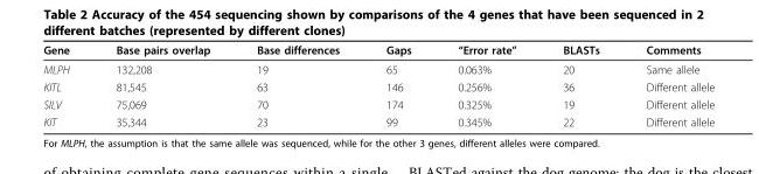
<table><thead><tr><td>Gene</td><td>Base pairs overlap</td><td>Base differences</td><td>Gaps</td><td>“Error rate”</td><td>BLASTs</td><td>Comments</td></tr></thead><tbody><tr><td>MLPH</td><td>132,208</td><td>19</td><td>65</td><td>0.063%</td><td>20</td><td>Same allele</td></tr><tr><td>KITL</td><td>81,545</td><td>63</td><td>146</td><td>0.256%</td><td>36</td><td>Different allele</td></tr><tr><td>SILV</td><td>75,069</td><td>70</td><td>174</td><td>0.325%</td><td>19</td><td>Different allele</td></tr><tr><td>KIT</td><td>35,344</td><td>23</td><td>99</td><td>0.345%</td><td>22</td><td>Different allele</td></tr></tbody></table>